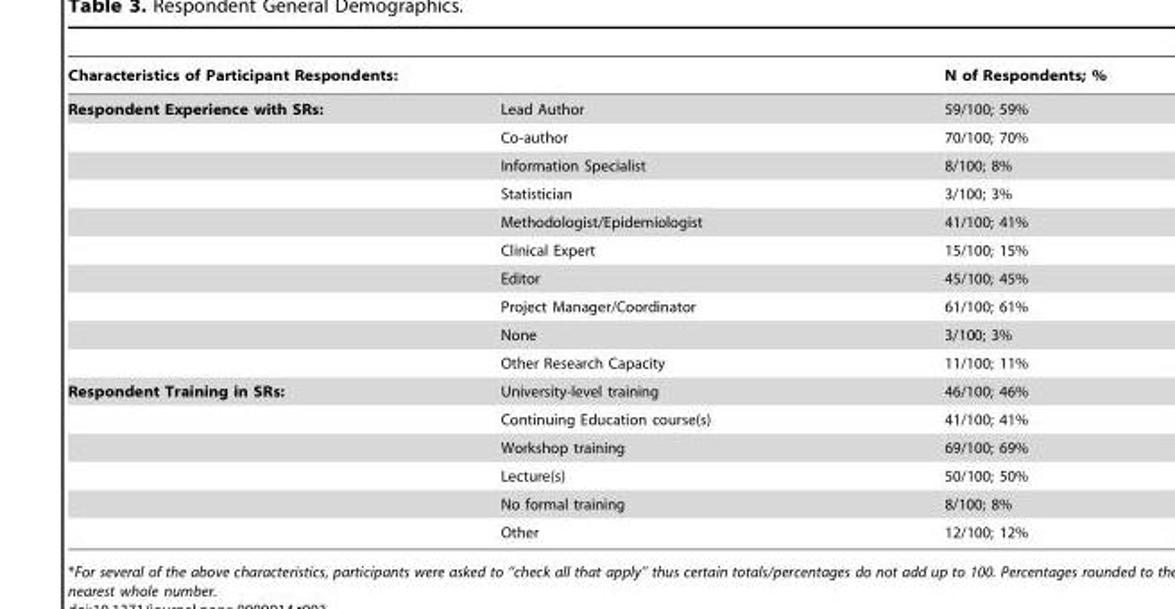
<table><thead><tr><td colspan="2">Characteristics of Participant Respondents:</td><td rowspan="2">N of Respondents; % 59/100; 59%</td></tr><tr><td>Respondent Experience with SRs:</td><td>Lead Author</td></tr></thead><tbody><tr><td></td><td>Co-author</td><td>70/100; 70%</td></tr><tr><td></td><td>Information Specialist</td><td>8/100; 8%</td></tr><tr><td></td><td>Statistician</td><td>3/100; 3%</td></tr><tr><td></td><td>Methodologist/Epidemiologist</td><td>41/100; 41%</td></tr><tr><td></td><td>Clinical Expert</td><td>15/100; 15%</td></tr><tr><td></td><td>Editor</td><td>45/100; 45%</td></tr><tr><td></td><td>Project Manager/Coordinator</td><td>61/100; 61%</td></tr><tr><td></td><td>None</td><td>3/100; 3%</td></tr><tr><td></td><td>Other Research Capacity</td><td>11/100; 11%</td></tr><tr><td rowspan="6">Respondent Training in SRs:</td><td>University-level training</td><td>46/100; 46%</td></tr><tr><td>Continuing Education course(s)</td><td>41/100; 41%</td></tr><tr><td>Workshop training</td><td>69/100; 69%</td></tr><tr><td>Lecture(s)</td><td>50/100; 50%</td></tr><tr><td>No formal training</td><td>8/100; 8%</td></tr><tr><td>Other</td><td>12/100; 12%</td></tr></tbody></table>